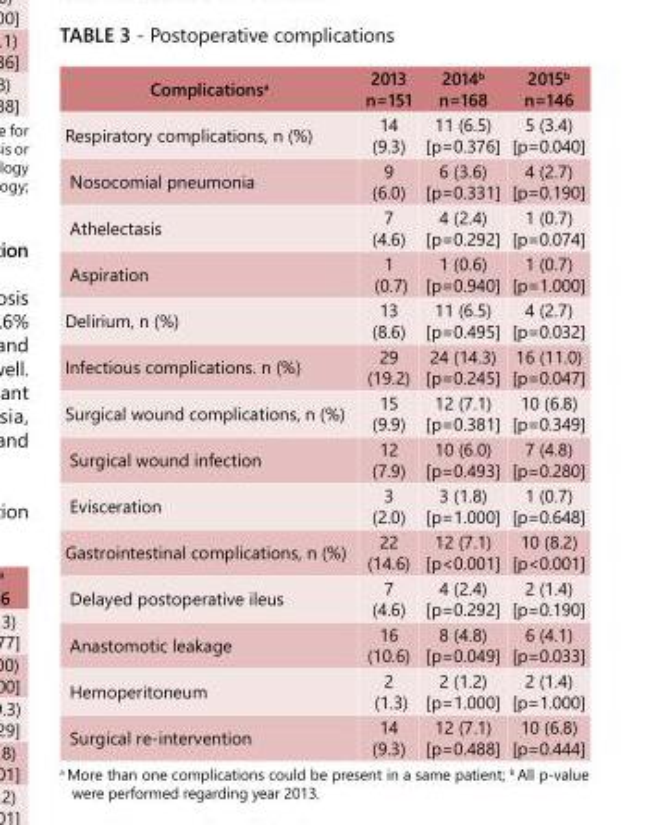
<table><tbody><tr><td>Complications<sup>a</sup></td><td>2013 n=151</td><td>2014<sup>b</sup> n=168</td><td>2015<sup>b</sup> n=146</td></tr><tr><td>Respiratory complications, n (%)</td><td>14 (9.3)</td><td>11 (6.5) [p=0.376]</td><td>5 (3.4) [p=0.040]</td></tr><tr><td>Nosocomial pneumonia</td><td>9 (6.0)</td><td>6 (3.6) [p=0.331]</td><td>4 (2.7) [p=0.190]</td></tr><tr><td>Athelectasis</td><td>7 (4.6)</td><td>4 (2.4) [p=0.292]</td><td>1 (0.7) [p=0.074]</td></tr><tr><td>Aspiration</td><td>1 (0.7)</td><td>1 (0.6) [p=0.940]</td><td>1 (0.7) [p=1.000]</td></tr><tr><td>Delirium, n (%)</td><td>13 (8.6)</td><td>11 (6.5) [p=0.495]</td><td>4 (2.7) [p=0.032]</td></tr><tr><td>Infectious complications. n (%)</td><td>29 (19.2)</td><td>24 (14.3) [p=0.245]</td><td>16 (11.0) [p=0.047]</td></tr><tr><td>Surgical wound complications, n (%)</td><td>15 (9.9)</td><td>12 (7.1) [p=0.381]</td><td>10 (6.8) [p=0.349]</td></tr><tr><td>Surgical wound infection</td><td>12 (7.9)</td><td>10 (6.0) [p=0.493]</td><td>7 (4.8) [p=0.280]</td></tr><tr><td>Evisceration</td><td>3 (2.0)</td><td>3 (1.8) [p=1.000]</td><td>1 (0.7) [p=0.648]</td></tr><tr><td>Gastrointestinal complications, n (%)</td><td>22 (14.6)</td><td>12 (7.1) [p&lt;0.001]</td><td>10 (8.2) [p&lt;0.001]</td></tr><tr><td>Delayed postoperative ileus</td><td>7 (4.6)</td><td>4 (2.4) [p=0.292]</td><td>2 (1.4) [p=0.190]</td></tr><tr><td>Anastomotic leakage</td><td>16 (10.6)</td><td>8 (4.8) [p=0.049]</td><td>6 (4.1) [p=0.033]</td></tr><tr><td>Hemoperitoneum</td><td>2 (1.3)</td><td>2 (1.2) [p=1.000]</td><td>2 (1.4) [p=1.000]</td></tr><tr><td>Surgical re-intervention</td><td>14 (9.3)</td><td>12 (7.1) [p=0.488]</td><td>10 (6.8) [p=0.444]</td></tr></tbody></table>